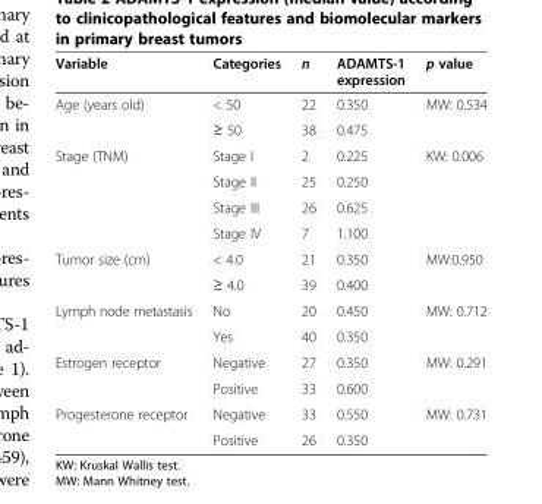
<table><thead><tr><td>Variable</td><td>Categories</td><td>n</td><td>ADAMTS-1 expression</td><td>p value</td></tr></thead><tbody><tr><td rowspan="2">Age (years old)</td><td>&lt; 50</td><td>22</td><td>0.350</td><td>MW: 0.534</td></tr><tr><td>≥ 50</td><td>38</td><td>0.475</td><td></td></tr><tr><td rowspan="4">Stage (TNM)</td><td>Stage I</td><td>2</td><td>0.225</td><td>KW: 0.006</td></tr><tr><td>Stage II</td><td>25</td><td>0.250</td><td></td></tr><tr><td>Stage III</td><td>26</td><td>0.625</td><td></td></tr><tr><td>Stage IV</td><td>7</td><td>1.100</td><td></td></tr><tr><td rowspan="2">Tumor size (cm)</td><td>&lt; 4.0</td><td>21</td><td>0.350</td><td>MW:0.950</td></tr><tr><td>≥ 4.0</td><td>39</td><td>0.400</td><td></td></tr><tr><td rowspan="2">Lymph node metastasis</td><td>No</td><td>20</td><td>0.450</td><td>MW: 0.712</td></tr><tr><td>Yes</td><td>40</td><td>0.350</td><td></td></tr><tr><td rowspan="2">Estrogen receptor</td><td>Negative</td><td>27</td><td>0.350</td><td>MW: 0.291</td></tr><tr><td>Positive</td><td>33</td><td>0.600</td><td></td></tr><tr><td rowspan="2">Progesterone receptor</td><td>Negative</td><td>33</td><td>0.550</td><td>MW: 0.731</td></tr><tr><td>Positive</td><td>26</td><td>0.350</td><td></td></tr></tbody></table>